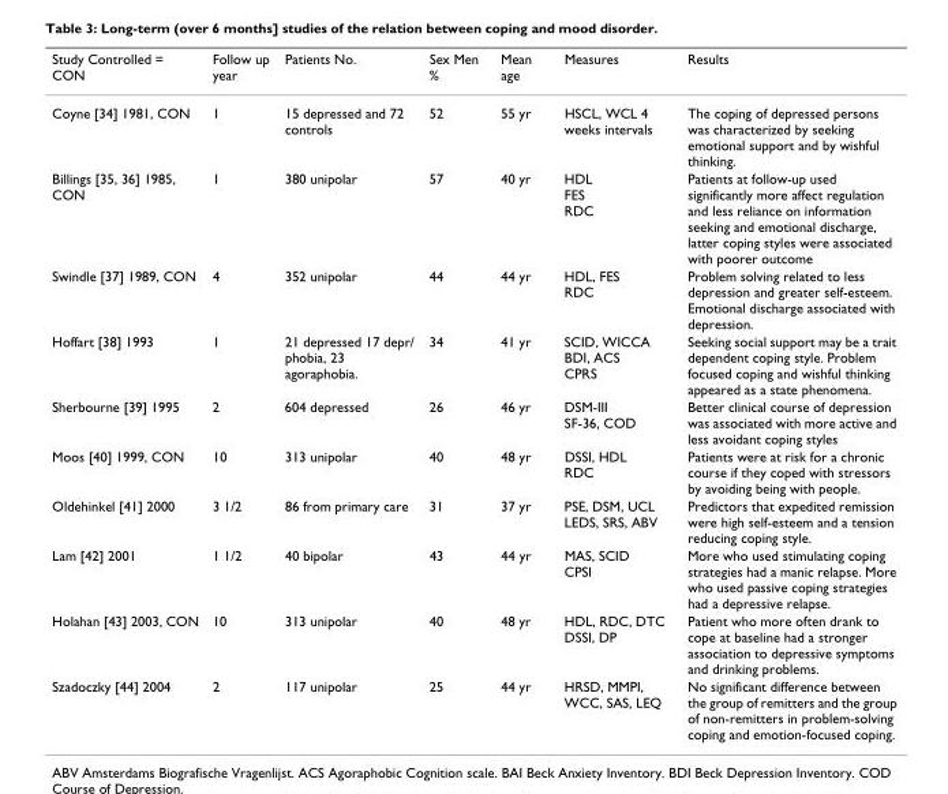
<table><thead><tr><td>Study Controlled = CON</td><td>Follow up year</td><td>Patients No.</td><td>Sex Men %</td><td>Mean age</td><td>Measures</td><td>Results</td></tr></thead><tbody><tr><td>Coyne [34] 1981, CON</td><td>1</td><td>15 depressed and 72 controls</td><td>52</td><td>55 yr</td><td>HSCL, WCL 4 weeks intervals</td><td>The coping of depressed persons was characterized by seeking emotional support and by wishful thinking.</td></tr><tr><td>Billings [35, 36] 1985, CON</td><td>1</td><td>380 unipolar</td><td>57</td><td>40 yr</td><td>HDL FES RDC</td><td>Patients at follow-up used significantly more affect regulation and less reliance on information seeking and emotional discharge, latter coping styles were associated with poorer outcome</td></tr><tr><td>Swindle [37] 1989, CON</td><td>4</td><td>352 unipolar</td><td>44</td><td>44 yr</td><td>HDL, FES RDC</td><td>Problem solving related to less depression and greater self-esteem. Emotional discharge associated with depression.</td></tr><tr><td>Hoffart [38] 1993</td><td>1</td><td>21 depressed 17 depr/ phobia, 23 agoraphobia.</td><td>34</td><td>41 yr</td><td>SCID, WICCA BDI, ACS CPRS</td><td>Seeking social support may be a trait dependent coping style. Problem focused coping and wishful thinking appeared as a state phenomena.</td></tr><tr><td>Sherbourne [39] 1995</td><td>2</td><td>604 depressed</td><td>26</td><td>46 yr</td><td>DSM-III SF-36, COD</td><td>Better clinical course of depression was associated with more active and less avoidant coping styles</td></tr><tr><td>Moos [40] 1999, CON</td><td>10</td><td>313 unipolar</td><td>40</td><td>48 yr</td><td>DSSI, HDL RDC</td><td>Patients were at risk for a chronic course if they coped with stressors by avoiding being with people.</td></tr><tr><td>Oldehinkel [41] 2000</td><td>3 1/2</td><td>86 from primary care</td><td>31</td><td>37 yr</td><td>PSE, DSM, UCL LEDS, SRS, ABV</td><td>Predictors that expedited remission were high self-esteem and a tension reducing coping style.</td></tr><tr><td>Lam [42] 2001</td><td>1 1/2</td><td>40 bipolar</td><td>43</td><td>44 yr</td><td>MAS, SCID CPSI</td><td>More who used stimulating coping strategies had a manic relapse. More who used passive coping strategies had a depressive relapse.</td></tr><tr><td>Holahan [43] 2003, CON</td><td>10</td><td>313 unipolar</td><td>40</td><td>48 yr</td><td>HDL, RDC, DTC DSSI, DP</td><td>Patient who more often drank to cope at baseline had a stronger association to depressive symptoms and drinking problems.</td></tr><tr><td>Szadoczky [44] 2004</td><td>2</td><td>117 unipolar</td><td>25</td><td>44 yr</td><td>HRSD, MMPI, WCC, SAS, LEQ</td><td>No significant difference between the group of remitters and the group of non-remitters in problem-solving coping and emotion-focused coping.</td></tr></tbody></table>